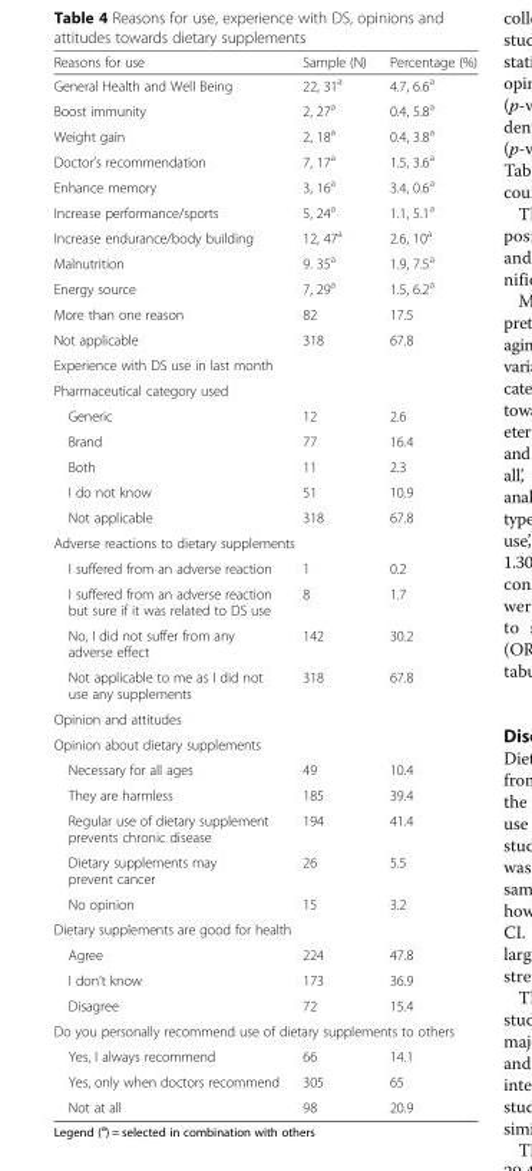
<table><thead><tr><td>Reasons for use</td><td>Sample (N)</td><td>Percentage (%)</td></tr></thead><tbody><tr><td>General Health and Well Being</td><td>22, 31<sup>a</sup></td><td>4.7, 6.6<sup>a</sup></td></tr><tr><td>Boost immunity</td><td>2, 27<sup>a</sup></td><td>0.4, 5.8<sup>a</sup></td></tr><tr><td>Weight gain</td><td>2, 18<sup>a</sup></td><td>0.4, 3.8<sup>a</sup></td></tr><tr><td>Doctor’s recommendation</td><td>7, 17<sup>a</sup></td><td>1.5, 3.6<sup>a</sup></td></tr><tr><td>Enhance memory</td><td>3, 16<sup>a</sup></td><td>3.4, 0.6<sup>a</sup></td></tr><tr><td>Increase performance/sports</td><td>5, 24<sup>a</sup></td><td>1.1, 5.1<sup>a</sup></td></tr><tr><td>Increase endurance/body building</td><td>12, 47<sup>a</sup></td><td>2.6, 10<sup>a</sup></td></tr><tr><td>Malnutrition</td><td>9. 35<sup>a</sup></td><td>1.9, 7.5<sup>a</sup></td></tr><tr><td>Energy source</td><td>7, 29<sup>a</sup></td><td>1.5, 6.2<sup>a</sup></td></tr><tr><td>More than one reason</td><td>82</td><td>17.5</td></tr><tr><td>Not applicable</td><td>318</td><td>67.8</td></tr><tr><td colspan="3">Experience with DS use in last month</td></tr><tr><td colspan="3">Pharmaceutical category used</td></tr><tr><td>Generic</td><td>12</td><td>2.6</td></tr><tr><td>Brand</td><td>77</td><td>16.4</td></tr><tr><td>Both</td><td>11</td><td>2.3</td></tr><tr><td>I do not know</td><td>51</td><td>10.9</td></tr><tr><td>Not applicable</td><td>318</td><td>67.8</td></tr><tr><td colspan="3">Adverse reactions to dietary supplements</td></tr><tr><td>I suffered from an adverse reaction</td><td>1</td><td>0.2</td></tr><tr><td>I suffered from an adverse reaction but sure if it was related to DS use</td><td>8</td><td>1.7</td></tr><tr><td>No, I did not suffer from any adverse effect</td><td>142</td><td>30.2</td></tr><tr><td>Not applicable to me as I did not use any supplements</td><td>318</td><td>67.8</td></tr><tr><td colspan="3">Opinion and attitudes</td></tr><tr><td colspan="3">Opinion about dietary supplements</td></tr><tr><td>Necessary for all ages</td><td>49</td><td>10.4</td></tr><tr><td>They are harmless</td><td>185</td><td>39.4</td></tr><tr><td>Regular use of dietary supplement prevents chronic disease</td><td>194</td><td>41.4</td></tr><tr><td>Dietary supplements may prevent cancer</td><td>26</td><td>5.5</td></tr><tr><td>No opinion</td><td>15</td><td>3.2</td></tr><tr><td colspan="3">Dietary supplements are good for health</td></tr><tr><td>Agree</td><td>224</td><td>47.8</td></tr><tr><td>I don’t know</td><td>173</td><td>36.9</td></tr><tr><td>Disagree</td><td>72</td><td>15.4</td></tr><tr><td colspan="3">Do you personally recommend use of dietary supplements to others</td></tr><tr><td>Yes, I always recommend</td><td>66</td><td>14.1</td></tr><tr><td>Yes, only when doctors recommend</td><td>305</td><td>65</td></tr><tr><td>Not at all</td><td>98</td><td>20.9</td></tr></tbody></table>